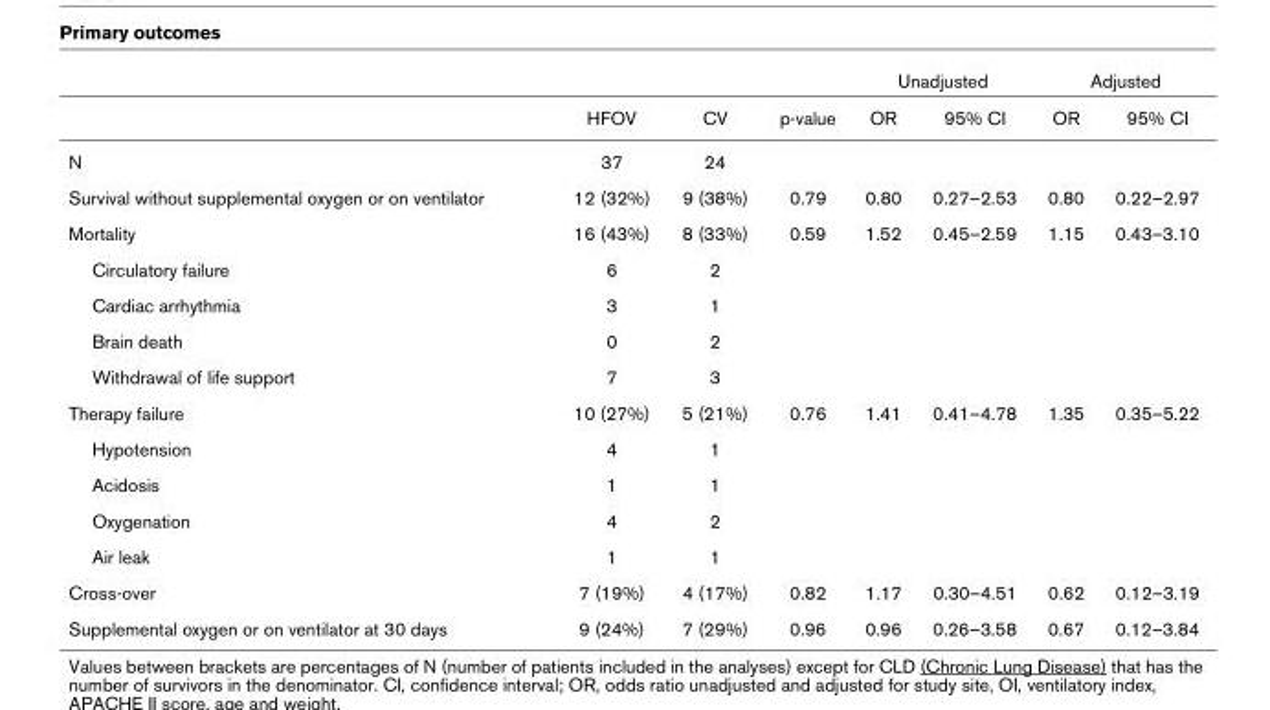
<table><thead><tr><td rowspan="2"></td><td rowspan="2">HFOV</td><td rowspan="2">CV</td><td rowspan="2">p-value</td><td colspan="2">Unadjusted</td><td colspan="2">Adjusted</td></tr><tr><td>OR</td><td>95% CI</td><td>OR</td><td>95% CI</td></tr></thead><tbody><tr><td>N</td><td>37</td><td>24</td><td></td><td></td><td></td><td></td><td></td></tr><tr><td>Survival without supplemental oxygen or on ventilator</td><td>12 (32%)</td><td>9 (38%)</td><td>0.79</td><td>0.80</td><td>0.27–2.53</td><td>0.80</td><td>0.22–2.97</td></tr><tr><td>Mortality</td><td>16 (43%)</td><td>8 (33%)</td><td>0.59</td><td>1.52</td><td>0.45–2.59</td><td>1.15</td><td>0.43–3.10</td></tr><tr><td>Circulatory failure</td><td>6</td><td>2</td><td></td><td></td><td></td><td></td><td></td></tr><tr><td>Cardiac arrhythmia</td><td>3</td><td>1</td><td></td><td></td><td></td><td></td><td></td></tr><tr><td>Brain death</td><td>0</td><td>2</td><td></td><td></td><td></td><td></td><td></td></tr><tr><td>Withdrawal of life support</td><td>7</td><td>3</td><td></td><td></td><td></td><td></td><td></td></tr><tr><td>Therapy failure</td><td>10 (27%)</td><td>5 (21%)</td><td>0.76</td><td>1.41</td><td>0.41–4.78</td><td>1.35</td><td>0.35–5.22</td></tr><tr><td>Hypotension</td><td>4</td><td>1</td><td></td><td></td><td></td><td></td><td></td></tr><tr><td>Acidosis</td><td>1</td><td>1</td><td></td><td></td><td></td><td></td><td></td></tr><tr><td>Oxygenation</td><td>4</td><td>2</td><td></td><td></td><td></td><td></td><td></td></tr><tr><td>Air leak</td><td>1</td><td>1</td><td></td><td></td><td></td><td></td><td></td></tr><tr><td>Cross-over</td><td>7 (19%)</td><td>4 (17%)</td><td>0.82</td><td>1.17</td><td>0.30–4.51</td><td>0.62</td><td>0.12–3.19</td></tr><tr><td>Supplemental oxygen or on ventilator at 30 days</td><td>9 (24%)</td><td>7 (29%)</td><td>0.96</td><td>0.96</td><td>0.26–3.58</td><td>0.67</td><td>0.12–3.84</td></tr></tbody></table>